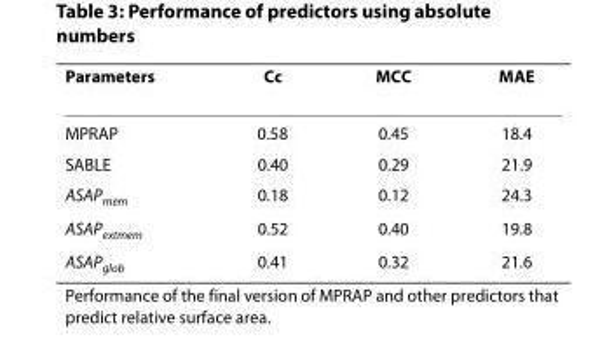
<table><thead><tr><td>Parameters</td><td>Cc</td><td>MCC</td><td>MAE</td></tr></thead><tbody><tr><td>MPRAP</td><td>0.58</td><td>0.45</td><td>18.4</td></tr><tr><td>SABLE</td><td>0.40</td><td>0.29</td><td>21.9</td></tr><tr><td>ASAP<sub>mem</sub></td><td>0.18</td><td>0.12</td><td>24.3</td></tr><tr><td>ASAP<sub>extmem</sub></td><td>0.52</td><td>0.40</td><td>19.8</td></tr><tr><td>ASAP<sub>glob</sub></td><td>0.41</td><td>0.32</td><td>21.6</td></tr></tbody></table>